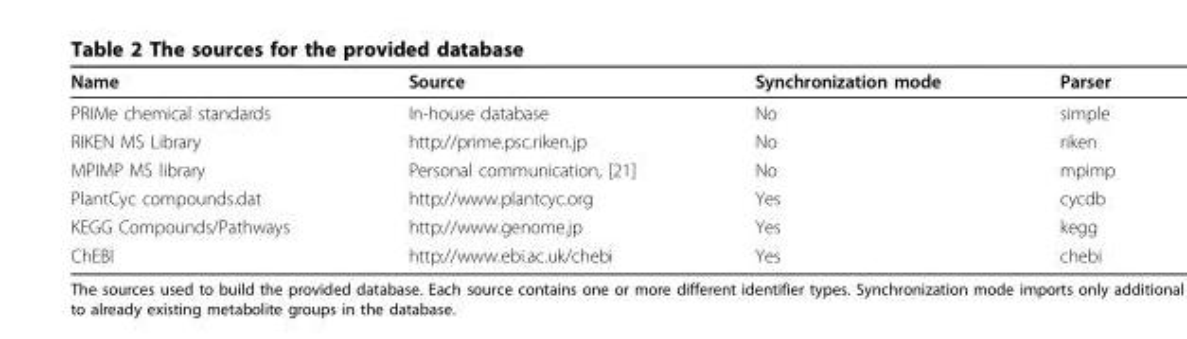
<table><thead><tr><td>Name</td><td>Source</td><td>Synchronization mode</td><td>Parser</td></tr></thead><tbody><tr><td>PRIMe chemical standards</td><td>In-house database</td><td>No</td><td>simple</td></tr><tr><td>RIKEN MS Library</td><td>http://prime.psc.riken.jp</td><td>No</td><td>riken</td></tr><tr><td>MPIMP MS library</td><td>Personal communication, [21]</td><td>No</td><td>mpimp</td></tr><tr><td>PlantCyc compounds.dat</td><td>http://www.plantcyc.org</td><td>Yes</td><td>cycdb</td></tr><tr><td>KEGG Compounds/Pathways</td><td>http://www.genome.jp</td><td>Yes</td><td>kegg</td></tr><tr><td>ChEBI</td><td>http://www.ebi.ac.uk/chebi</td><td>Yes</td><td>chebi</td></tr></tbody></table>